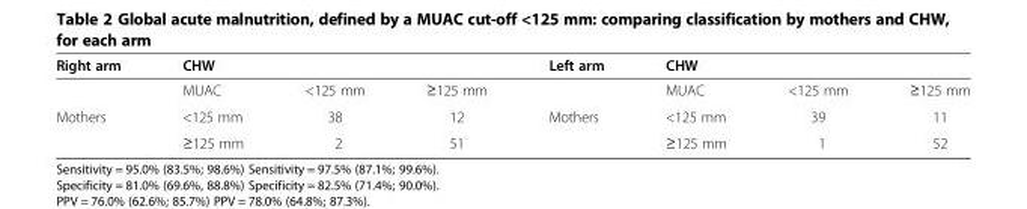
<table><thead><tr><td rowspan="2">Right arm</td><td colspan="3">CHW</td><td rowspan="2">Left arm</td><td colspan="3">CHW</td></tr><tr><td>MUAC</td><td>&lt;125 mm</td><td>≥125 mm</td><td>MUAC</td><td>&lt;125 mm</td><td>≥125 mm</td></tr></thead><tbody><tr><td rowspan="2">Mothers</td><td>&lt;125 mm</td><td>38</td><td>12</td><td>Mothers</td><td>&lt;125 mm</td><td>39</td><td>11</td></tr><tr><td>≥125 mm</td><td>2</td><td>51</td><td></td><td>≥125 mm</td><td>1</td><td>52</td></tr></tbody></table>